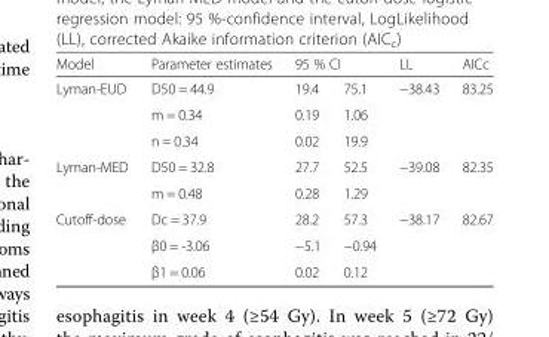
<table><thead><tr><td rowspan="2">Model Lyman-EUD</td><td rowspan="2">Parameter estimates D50 = 44.9</td><td colspan="2">95 % CI</td><td rowspan="2">LL −38.43</td><td rowspan="2">AICc 83.25</td></tr><tr><td>19.4</td><td>75.1</td></tr></thead><tbody><tr><td></td><td>m = 0.34</td><td>0.19</td><td>1.06</td><td></td><td></td></tr><tr><td></td><td>n = 0.34</td><td>0.02</td><td>19.9</td><td></td><td></td></tr><tr><td rowspan="2">Lyman-MED</td><td>D50 = 32.8</td><td>27.7</td><td>52.5</td><td>−39.08</td><td>82.35</td></tr><tr><td>m = 0.48</td><td>0.28</td><td>1.29</td><td></td><td></td></tr><tr><td rowspan="3">Cutoff-dose</td><td>Dc = 37.9</td><td>28.2</td><td>57.3</td><td>−38.17</td><td>82.67</td></tr><tr><td>β0 = -3.06</td><td>−5.1</td><td>−0.94</td><td></td><td></td></tr><tr><td>β1 = 0.06</td><td>0.02</td><td>0.12</td><td></td><td></td></tr></tbody></table>